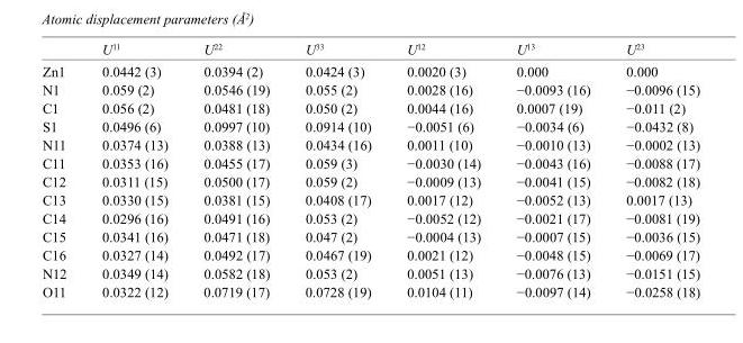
<table><thead><tr><td></td><td>U<sup>11</sup></td><td>U<sup>22</sup></td><td>U<sup>33</sup></td><td>U<sup>12</sup></td><td>U<sup>13</sup></td><td>U<sup>23</sup></td></tr></thead><tbody><tr><td>Zn1</td><td>0.0442 (3)</td><td>0.0394 (2)</td><td>0.0424 (3)</td><td>0.0020 (3)</td><td>0.000</td><td>0.000</td></tr><tr><td>N1</td><td>0.059 (2)</td><td>0.0546 (19)</td><td>0.055 (2)</td><td>0.0028 (16)</td><td>−0.0093 (16)</td><td>−0.0096 (15)</td></tr><tr><td>C1</td><td>0.056 (2)</td><td>0.0481 (18)</td><td>0.050 (2)</td><td>0.0044 (16)</td><td>0.0007 (19)</td><td>−0.011 (2)</td></tr><tr><td>S1</td><td>0.0496 (6)</td><td>0.0997 (10)</td><td>0.0914 (10)</td><td>−0.0051 (6)</td><td>−0.0034 (6)</td><td>−0.0432 (8)</td></tr><tr><td>N11</td><td>0.0374 (13)</td><td>0.0388 (13)</td><td>0.0434 (16)</td><td>0.0011 (10)</td><td>−0.0010 (13)</td><td>−0.0002 (13)</td></tr><tr><td>C11</td><td>0.0353 (16)</td><td>0.0455 (17)</td><td>0.059 (3)</td><td>−0.0030 (14)</td><td>−0.0043 (16)</td><td>−0.0088 (17)</td></tr><tr><td>C12</td><td>0.0311 (15)</td><td>0.0500 (17)</td><td>0.059 (2)</td><td>−0.0009 (13)</td><td>−0.0041 (15)</td><td>−0.0082 (18)</td></tr><tr><td>C13</td><td>0.0330 (15)</td><td>0.0381 (15)</td><td>0.0408 (17)</td><td>0.0017 (12)</td><td>−0.0052 (13)</td><td>0.0017 (13)</td></tr><tr><td>C14</td><td>0.0296 (16)</td><td>0.0491 (16)</td><td>0.053 (2)</td><td>−0.0052 (12)</td><td>−0.0021 (17)</td><td>−0.0081 (19)</td></tr><tr><td>C15</td><td>0.0341 (16)</td><td>0.0471 (18)</td><td>0.047 (2)</td><td>−0.0004 (13)</td><td>−0.0007 (15)</td><td>−0.0036 (15)</td></tr><tr><td>C16</td><td>0.0327 (14)</td><td>0.0492 (17)</td><td>0.0467 (19)</td><td>0.0021 (12)</td><td>−0.0048 (15)</td><td>−0.0069 (17)</td></tr><tr><td>N12</td><td>0.0349 (14)</td><td>0.0582 (18)</td><td>0.053 (2)</td><td>0.0051 (13)</td><td>−0.0076 (13)</td><td>−0.0151 (15)</td></tr><tr><td>O11</td><td>0.0322 (12)</td><td>0.0719 (17)</td><td>0.0728 (19)</td><td>0.0104 (11)</td><td>−0.0097 (14)</td><td>−0.0258 (18)</td></tr></tbody></table>